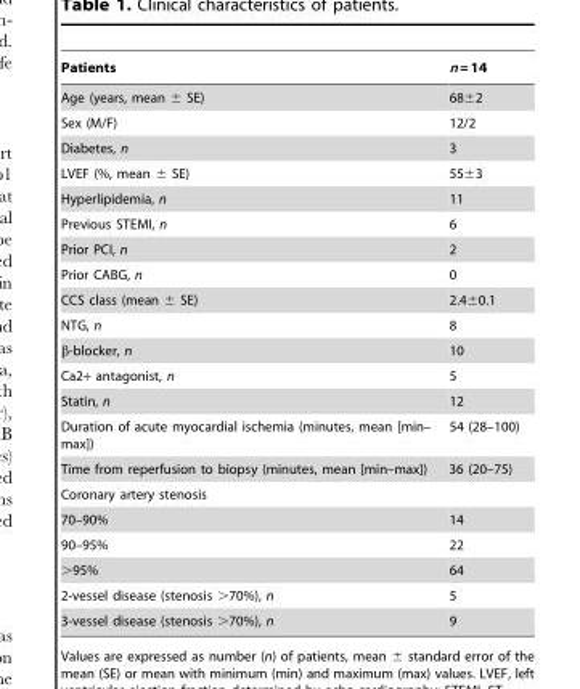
<table><thead><tr><td>Patients</td><td>n = 14</td></tr></thead><tbody><tr><td>Age (years, mean ± SE)</td><td>68±2</td></tr><tr><td>Sex (M/F)</td><td>12/2</td></tr><tr><td>Diabetes, n</td><td>3</td></tr><tr><td>LVEF (%, mean ± SE)</td><td>55±3</td></tr><tr><td>Hyperlipidemia, n</td><td>11</td></tr><tr><td>Previous STEMI, n</td><td>6</td></tr><tr><td>Prior PCI, n</td><td>2</td></tr><tr><td>Prior CABG, n</td><td>0</td></tr><tr><td>CCS class (mean ± SE)</td><td>2.4±0.1</td></tr><tr><td>NTG, n</td><td>8</td></tr><tr><td>β-blocker, n</td><td>10</td></tr><tr><td>Ca2+ antagonist, n</td><td>5</td></tr><tr><td>Statin, n</td><td>12</td></tr><tr><td>Duration of acute myocardial ischemia (minutes, mean [min– max])</td><td>54 (28–100)</td></tr><tr><td>Time from reperfusion to biopsy (minutes, mean [min–max])</td><td>36 (20–75)</td></tr><tr><td colspan="2">Coronary artery stenosis</td></tr><tr><td>70–90%</td><td>14</td></tr><tr><td>90–95%</td><td>22</td></tr><tr><td>&gt;95%</td><td>64</td></tr><tr><td>2-vessel disease (stenosis &gt;70%), n</td><td>5</td></tr><tr><td>3-vessel disease (stenosis &gt;70%), n</td><td>9</td></tr></tbody></table>